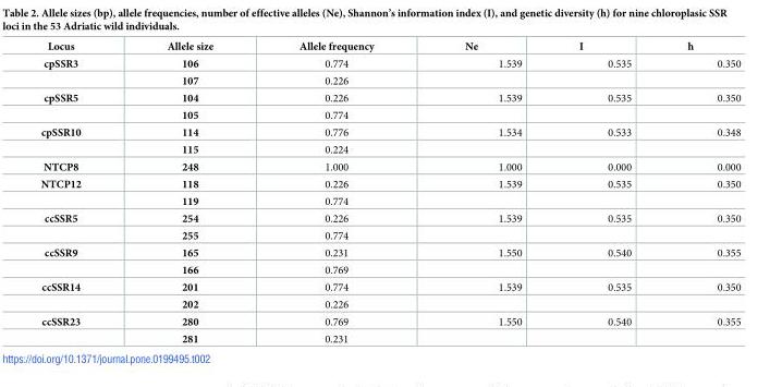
<table><thead><tr><td>Locus</td><td>Allele size</td><td>Allele frequency</td><td>Ne</td><td>I</td><td>h</td></tr></thead><tbody><tr><td rowspan="2">cpSSR3</td><td>106</td><td>0.774</td><td>1.539</td><td>0.535</td><td>0.350</td></tr><tr><td>107</td><td>0.226</td><td></td><td></td><td></td></tr><tr><td rowspan="2">cpSSR5</td><td>104</td><td>0.226</td><td>1.539</td><td>0.535</td><td>0.350</td></tr><tr><td>105</td><td>0.774</td><td></td><td></td><td></td></tr><tr><td rowspan="2">cpSSR10</td><td>114</td><td>0.776</td><td>1.534</td><td>0.533</td><td>0.348</td></tr><tr><td>115</td><td>0.224</td><td></td><td></td><td></td></tr><tr><td>NTCP8</td><td>248</td><td>1.000</td><td>1.000</td><td>0.000</td><td>0.000</td></tr><tr><td rowspan="2">NTCP12</td><td>118</td><td>0.226</td><td>1.539</td><td>0.535</td><td>0.350</td></tr><tr><td>119</td><td>0.774</td><td></td><td></td><td></td></tr><tr><td rowspan="2">ccSSR5</td><td>254</td><td>0.226</td><td>1.539</td><td>0.535</td><td>0.350</td></tr><tr><td>255</td><td>0.774</td><td></td><td></td><td></td></tr><tr><td rowspan="2">ccSSR9</td><td>165</td><td>0.231</td><td>1.550</td><td>0.540</td><td>0.355</td></tr><tr><td>166</td><td>0.769</td><td></td><td></td><td></td></tr><tr><td rowspan="2">ccSSR14</td><td>201</td><td>0.774</td><td>1.539</td><td>0.535</td><td>0.350</td></tr><tr><td>202</td><td>0.226</td><td></td><td></td><td></td></tr><tr><td rowspan="2">ccSSR23</td><td>280</td><td>0.769</td><td>1.550</td><td>0.540</td><td>0.355</td></tr><tr><td>281</td><td>0.231</td><td></td><td></td><td></td></tr></tbody></table>